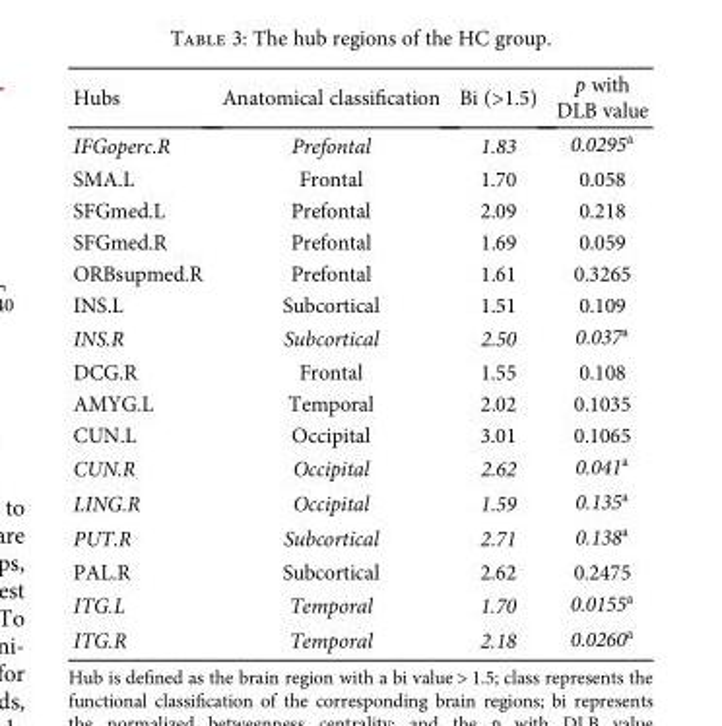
<table><thead><tr><td>Hubs</td><td>Anatomical classification</td><td>Bi (&gt;1.5)</td><td>p with DLB value</td></tr></thead><tbody><tr><td>IFGoperc.R</td><td>Prefontal</td><td>1.83</td><td>0.0295<sup>a</sup></td></tr><tr><td>SMA.L</td><td>Frontal</td><td>1.70</td><td>0.058</td></tr><tr><td>SFGmed.L</td><td>Prefontal</td><td>2.09</td><td>0.218</td></tr><tr><td>SFGmed.R</td><td>Prefontal</td><td>1.69</td><td>0.059</td></tr><tr><td>ORBsupmed.R</td><td>Prefontal</td><td>1.61</td><td>0.3265</td></tr><tr><td>INS.L</td><td>Subcortical</td><td>1.51</td><td>0.109</td></tr><tr><td>INS.R</td><td>Subcortical</td><td>2.50</td><td>0.037<sup>a</sup></td></tr><tr><td>DCG.R</td><td>Frontal</td><td>1.55</td><td>0.108</td></tr><tr><td>AMYG.L</td><td>Temporal</td><td>2.02</td><td>0.1035</td></tr><tr><td>CUN.L</td><td>Occipital</td><td>3.01</td><td>0.1065</td></tr><tr><td>CUN.R</td><td>Occipital</td><td>2.62</td><td>0.041<sup>a</sup></td></tr><tr><td>LING.R</td><td>Occipital</td><td>1.59</td><td>0.135<sup>a</sup></td></tr><tr><td>PUT.R</td><td>Subcortical</td><td>2.71</td><td>0.138<sup>a</sup></td></tr><tr><td>PAL.R</td><td>Subcortical</td><td>2.62</td><td>0.2475</td></tr><tr><td>ITG.L</td><td>Temporal</td><td>1.70</td><td>0.0155<sup>a</sup></td></tr><tr><td>ITG.R</td><td>Temporal</td><td>2.18</td><td>0.0260<sup>a</sup></td></tr></tbody></table>